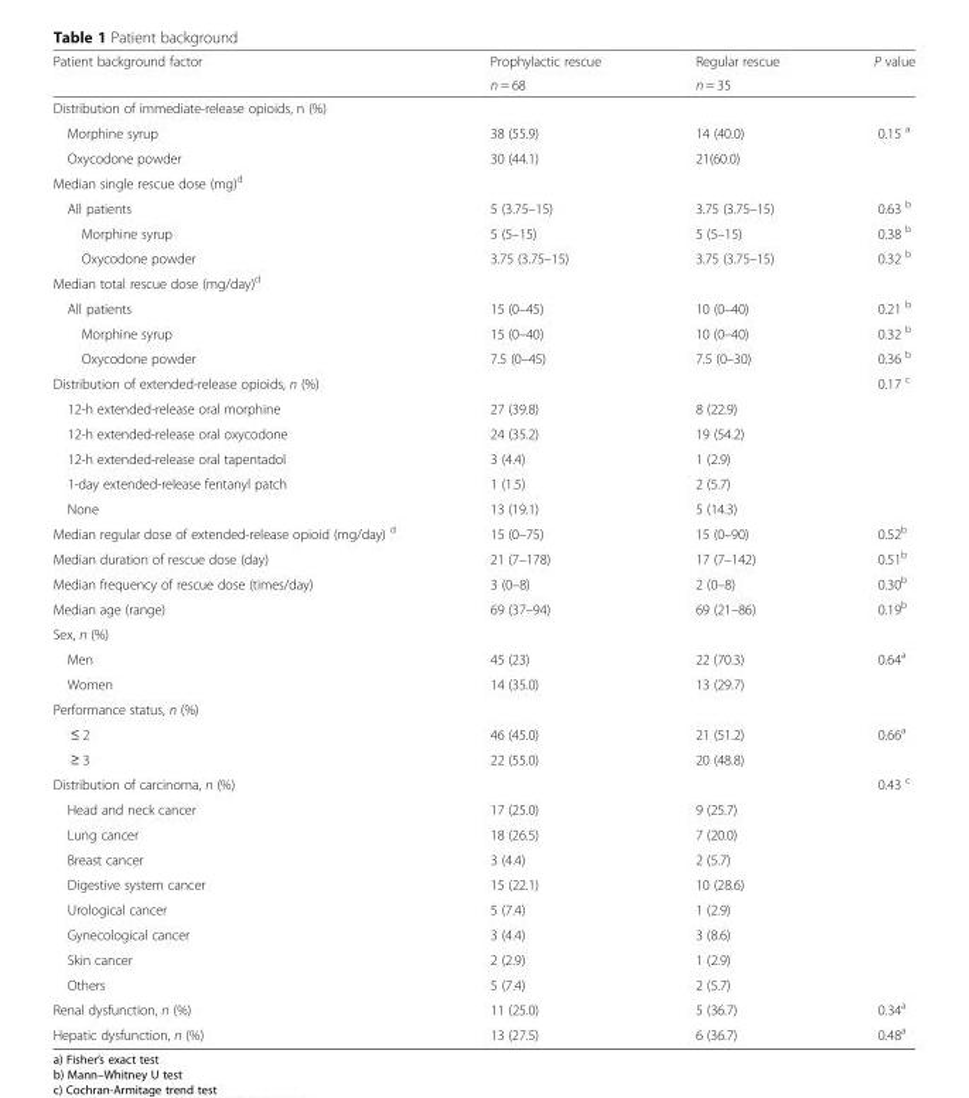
<table><thead><tr><td rowspan="2">Patient background factor</td><td rowspan="2">Prophylactic rescue n = 68</td><td rowspan="2">Regular rescue n = 35</td><td rowspan="2">P value</td></tr><tr></tr></thead><tbody><tr><td colspan="4">Distribution of immediate-release opioids, n (%)</td></tr><tr><td>Morphine syrup</td><td>38 (55.9)</td><td>14 (40.0)</td><td>0.15 <sup>a</sup></td></tr><tr><td>Oxycodone powder</td><td>30 (44.1)</td><td>21(60.0)</td><td></td></tr><tr><td colspan="4">Median single rescue dose (mg)<sup>d</sup></td></tr><tr><td>All patients</td><td>5 (3.75–15)</td><td>3.75 (3.75–15)</td><td>0.63 <sup>b</sup></td></tr><tr><td>Morphine syrup</td><td>5 (5–15)</td><td>5 (5–15)</td><td>0.38 <sup>b</sup></td></tr><tr><td>Oxycodone powder</td><td>3.75 (3.75–15)</td><td>3.75 (3.75–15)</td><td>0.32 <sup>b</sup></td></tr><tr><td colspan="4">Median total rescue dose (mg/day)<sup>d</sup></td></tr><tr><td>All patients</td><td>15 (0–45)</td><td>10 (0–40)</td><td>0.21 <sup>b</sup></td></tr><tr><td>Morphine syrup</td><td>15 (0–40)</td><td>10 (0–40)</td><td>0.32 <sup>b</sup></td></tr><tr><td>Oxycodone powder</td><td>7.5 (0–45)</td><td>7.5 (0–30)</td><td>0.36 <sup>b</sup></td></tr><tr><td>Distribution of extended-release opioids, n (%)</td><td></td><td></td><td>0.17 <sup>c</sup></td></tr><tr><td>12-h extended-release oral morphine</td><td>27 (39.8)</td><td>8 (22.9)</td><td></td></tr><tr><td>12-h extended-release oral oxycodone</td><td>24 (35.2)</td><td>19 (54.2)</td><td></td></tr><tr><td>12-h extended-release oral tapentadol</td><td>3 (4.4)</td><td>1 (2.9)</td><td></td></tr><tr><td>1-day extended-release fentanyl patch</td><td>1 (1.5)</td><td>2 (5.7)</td><td></td></tr><tr><td>None</td><td>13 (19.1)</td><td>5 (14.3)</td><td></td></tr><tr><td>Median regular dose of extended-release opioid (mg/day) <sup>d</sup></td><td>15 (0–75)</td><td>15 (0–90)</td><td>0.52<sup>b</sup></td></tr><tr><td>Median duration of rescue dose (day)</td><td>21 (7–178)</td><td>17 (7–142)</td><td>0.51<sup>b</sup></td></tr><tr><td>Median frequency of rescue dose (times/day)</td><td>3 (0–8)</td><td>2 (0–8)</td><td>0.30<sup>b</sup></td></tr><tr><td>Median age (range)</td><td>69 (37–94)</td><td>69 (21–86)</td><td>0.19<sup>b</sup></td></tr><tr><td colspan="4">Sex, n (%)</td></tr><tr><td>Men</td><td>45 (23)</td><td>22 (70.3)</td><td>0.64<sup>a</sup></td></tr><tr><td>Women</td><td>14 (35.0)</td><td>13 (29.7)</td><td></td></tr><tr><td colspan="4">Performance status, n (%)</td></tr><tr><td>≤ 2</td><td>46 (45.0)</td><td>21 (51.2)</td><td>0.66<sup>a</sup></td></tr><tr><td>≥ 3</td><td>22 (55.0)</td><td>20 (48.8)</td><td></td></tr><tr><td>Distribution of carcinoma, n (%)</td><td></td><td></td><td>0.43 <sup>c</sup></td></tr><tr><td>Head and neck cancer</td><td>17 (25.0)</td><td>9 (25.7)</td><td></td></tr><tr><td>Lung cancer</td><td>18 (26.5)</td><td>7 (20.0)</td><td></td></tr><tr><td>Breast cancer</td><td>3 (4.4)</td><td>2 (5.7)</td><td></td></tr><tr><td>Digestive system cancer</td><td>15 (22.1)</td><td>10 (28.6)</td><td></td></tr><tr><td>Urological cancer</td><td>5 (7.4)</td><td>1 (2.9)</td><td></td></tr><tr><td>Gynecological cancer</td><td>3 (4.4)</td><td>3 (8.6)</td><td></td></tr><tr><td>Skin cancer</td><td>2 (2.9)</td><td>1 (2.9)</td><td></td></tr><tr><td>Others</td><td>5 (7.4)</td><td>2 (5.7)</td><td></td></tr><tr><td>Renal dysfunction, n (%)</td><td>11 (25.0)</td><td>5 (36.7)</td><td>0.34<sup>a</sup></td></tr><tr><td>Hepatic dysfunction, n (%)</td><td>13 (27.5)</td><td>6 (36.7)</td><td>0.48<sup>a</sup></td></tr></tbody></table>